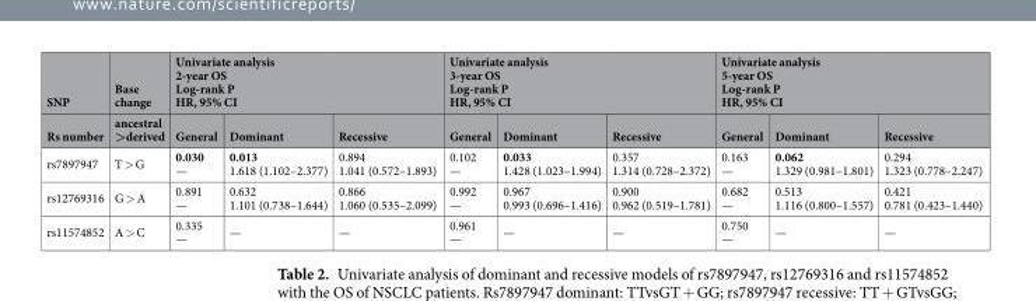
<table><thead><tr><td rowspan="2">SNP Rs number</td><td rowspan="2">Base change ancestral &gt;derived</td><td colspan="3">Univariate analysis 2-year OS Log-rank P HR, 95% CI</td><td colspan="3">Univariate analysis 3-year OS Log-rank P HR, 95% CI</td><td colspan="3">Univariate analysis 5-year OS Log-rank P HR, 95% CI</td></tr><tr><td>General</td><td>Dominant</td><td>Recessive</td><td>General</td><td>Dominant</td><td>Recessive</td><td>General</td><td>Dominant</td><td>Recessive</td></tr></thead><tbody><tr><td>rs7897947</td><td>T &gt; G</td><td>0.030 —</td><td>0.013 1.618 (1.102–2.377)</td><td>0.894 1.041 (0.572–1.893)</td><td>0.102 —</td><td>0.033 1.428 (1.023–1.994)</td><td>0.357 1.314 (0.728–2.372)</td><td>0.163 —</td><td>0.062 1.329 (0.981–1.801)</td><td>0.294 1.323 (0.778–2.247)</td></tr><tr><td>rs12769316</td><td>G &gt; A</td><td>0.891 —</td><td>0.632 1.101 (0.738–1.644)</td><td>0.866 1.060 (0.535–2.099)</td><td>0.992 —</td><td>0.967 0.993 (0.696–1.416)</td><td>0.900 0.962 (0.519–1.781)</td><td>0.682 —</td><td>0.513 1.116 (0.800–1.557)</td><td>0.421 0.781 (0.423–1.440)</td></tr><tr><td>rs11574852</td><td>A &gt; C</td><td>0.335 —</td><td>—</td><td>—</td><td>0.961 —</td><td>—</td><td>—</td><td>0.750 —</td><td>—</td><td>—</td></tr></tbody></table>